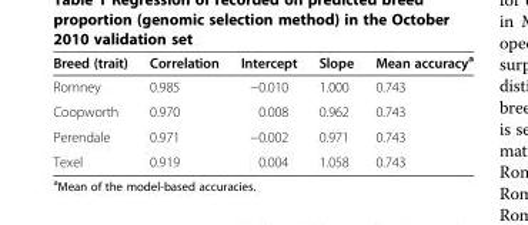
<table><thead><tr><td>Breed (trait)</td><td>Correlation</td><td>Intercept</td><td>Slope</td><td>Mean accuracy<sup>a</sup></td></tr></thead><tbody><tr><td>Romney</td><td>0.985</td><td>−0.010</td><td>1.000</td><td>0.743</td></tr><tr><td>Coopworth</td><td>0.970</td><td>0.008</td><td>0.962</td><td>0.743</td></tr><tr><td>Perendale</td><td>0.971</td><td>−0.002</td><td>0.971</td><td>0.743</td></tr><tr><td>Texel</td><td>0.919</td><td>0.004</td><td>1.058</td><td>0.743</td></tr></tbody></table>